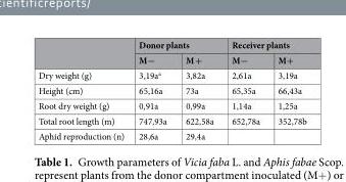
<table><thead><tr><td rowspan="2"></td><td colspan="2">Donor plants</td><td colspan="2">Receiver plants</td></tr><tr><td>M−</td><td>M +</td><td>M−</td><td>M+</td></tr></thead><tbody><tr><td>Dry weight (g)</td><td>3,19a<sup>a</sup></td><td>3,82a</td><td>2,61a</td><td>3,19a</td></tr><tr><td>Height (cm)</td><td>65,16a</td><td>73a</td><td>65,35a</td><td>66,43a</td></tr><tr><td>Root dry weight (g)</td><td>0,91a</td><td>0,99a</td><td>1,14a</td><td>1,25a</td></tr><tr><td>Total root length (m)</td><td>747,93a</td><td>622,58a</td><td>652,78a</td><td>352,78b</td></tr><tr><td>Aphid reproduction (n)</td><td>28,6a</td><td>29,4a</td><td></td><td></td></tr></tbody></table>